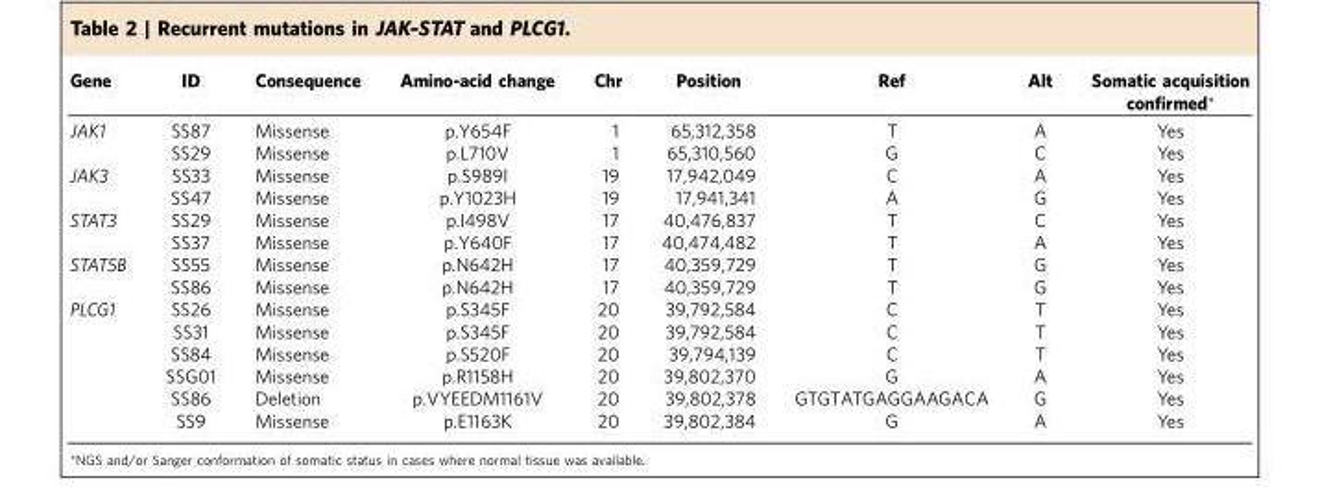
<table><thead><tr><td>Gene</td><td>ID</td><td>Consequence</td><td>Amino-acid change</td><td>Chr</td><td>Position</td><td>Ref</td><td>Alt</td><td>Somatic acquisition confirmed*</td></tr></thead><tbody><tr><td rowspan="2">JAK1</td><td>SS87</td><td>Missense</td><td>p.Y654F</td><td>1</td><td>65,312,358</td><td>T</td><td>A</td><td>Yes</td></tr><tr><td>SS29</td><td>Missense</td><td>p.L710V</td><td>1</td><td>65,310,560</td><td>G</td><td>C</td><td>Yes</td></tr><tr><td rowspan="2">JAK3</td><td>SS33</td><td>Missense</td><td>p.S989I</td><td>19</td><td>17,942,049</td><td>C</td><td>A</td><td>Yes</td></tr><tr><td>SS47</td><td>Missense</td><td>p.Y1023H</td><td>19</td><td>17,941,341</td><td>A</td><td>G</td><td>Yes</td></tr><tr><td rowspan="2">STAT3</td><td>SS29</td><td>Missense</td><td>p.I498V</td><td>17</td><td>40,476,837</td><td>T</td><td>C</td><td>Yes</td></tr><tr><td>SS37</td><td>Missense</td><td>p.Y640F</td><td>17</td><td>40,474,482</td><td>T</td><td>A</td><td>Yes</td></tr><tr><td rowspan="2">STAT5B</td><td>SS55</td><td>Missense</td><td>p.N642H</td><td>17</td><td>40,359,729</td><td>T</td><td>G</td><td>Yes</td></tr><tr><td>SS86</td><td>Missense</td><td>p.N642H</td><td>17</td><td>40,359,729</td><td>T</td><td>G</td><td>Yes</td></tr><tr><td rowspan="6">PLCG1</td><td>SS26</td><td>Missense</td><td>p.S345F</td><td>20</td><td>39,792,584</td><td>C</td><td>T</td><td>Yes</td></tr><tr><td>SS31</td><td>Missense</td><td>p.S345F</td><td>20</td><td>39,792,584</td><td>C</td><td>T</td><td>Yes</td></tr><tr><td>SS84</td><td>Missense</td><td>p.S520F</td><td>20</td><td>39,794,139</td><td>C</td><td>T</td><td>Yes</td></tr><tr><td>SSG01</td><td>Missense</td><td>p.R1158H</td><td>20</td><td>39,802,370</td><td>G</td><td>A</td><td>Yes</td></tr><tr><td>SS86</td><td>Deletion</td><td>p.VYEEDM1161V</td><td>20</td><td>39,802,378</td><td>GTGTATGAGGAAGACA</td><td>G</td><td>Yes</td></tr><tr><td>SS9</td><td>Missense</td><td>p.E1163K</td><td>20</td><td>39,802,384</td><td>G</td><td>A</td><td>Yes</td></tr></tbody></table>